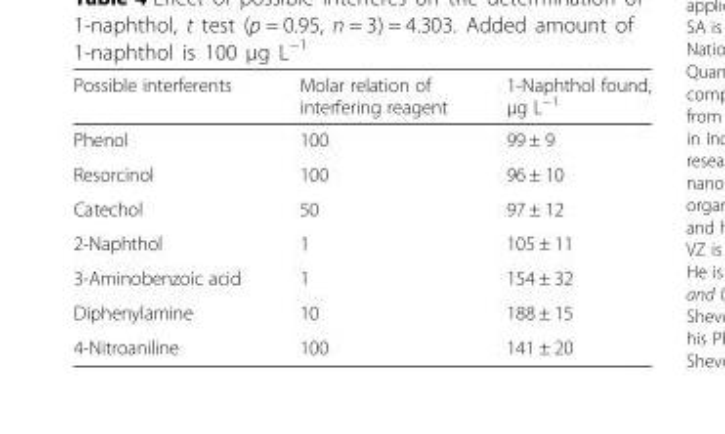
<table><thead><tr><td>Possible interferents</td><td>Molar relation of interfering reagent</td><td>1-Naphthol found, μg L<sup>−1</sup></td></tr></thead><tbody><tr><td>Phenol</td><td>100</td><td>99 ± 9</td></tr><tr><td>Resorcinol</td><td>100</td><td>96 ± 10</td></tr><tr><td>Catechol</td><td>50</td><td>97 ± 12</td></tr><tr><td>2-Naphthol</td><td>1</td><td>105 ± 11</td></tr><tr><td>3-Aminobenzoic acid</td><td>1</td><td>154 ± 32</td></tr><tr><td>Diphenylamine</td><td>10</td><td>188 ± 15</td></tr><tr><td>4-Nitroaniline</td><td>100</td><td>141 ± 20</td></tr></tbody></table>